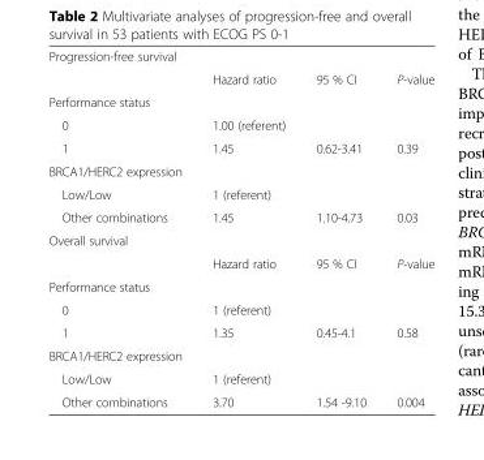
<table><tbody><tr><td colspan="4">Progression-free survival</td></tr><tr><td></td><td>Hazard ratio</td><td>95 % CI</td><td>P-value</td></tr><tr><td colspan="4">Performance status</td></tr><tr><td>0</td><td>1.00 (referent)</td><td></td><td></td></tr><tr><td>1</td><td>1.45</td><td>0.62-3.41</td><td>0.39</td></tr><tr><td colspan="4">BRCA1/HERC2 expression</td></tr><tr><td>Low/Low</td><td>1 (referent)</td><td></td><td></td></tr><tr><td>Other combinations</td><td>1.45</td><td>1.10-4.73</td><td>0.03</td></tr><tr><td colspan="4">Overall survival</td></tr><tr><td></td><td>Hazard ratio</td><td>95 % CI</td><td>P-value</td></tr><tr><td colspan="4">Performance status</td></tr><tr><td>0</td><td>1 (referent)</td><td></td><td></td></tr><tr><td>1</td><td>1.35</td><td>0.45-4.1</td><td>0.58</td></tr><tr><td colspan="4">BRCA1/HERC2 expression</td></tr><tr><td>Low/Low</td><td>1 (referent)</td><td></td><td></td></tr><tr><td>Other combinations</td><td>3.70</td><td>1.54 -9.10</td><td>0.004</td></tr></tbody></table>